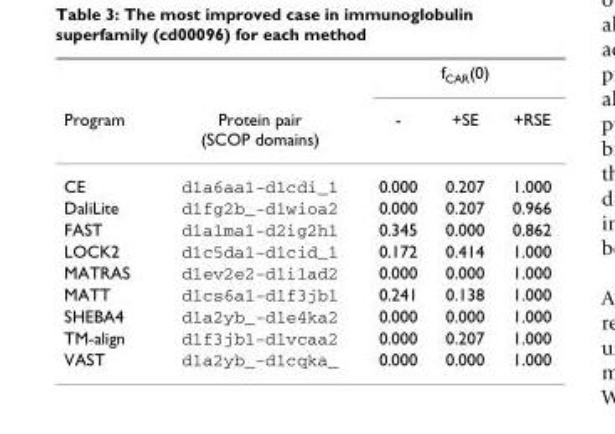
<table><thead><tr><td rowspan="2">Program</td><td rowspan="2">Protein pair (SCOP domains)</td><td colspan="3">f<sub>CAR</sub>(0)</td></tr><tr><td>-</td><td>+SE</td><td>+RSE</td></tr></thead><tbody><tr><td>CE</td><td>d1a6aa1-d1cdi_1</td><td>0.000</td><td>0.207</td><td>1.000</td></tr><tr><td>DaliLite</td><td>d1fg2b_-d1wioa2</td><td>0.000</td><td>0.207</td><td>0.966</td></tr><tr><td>FAST</td><td>d1a1ma1-d2ig2h1</td><td>0.345</td><td>0.000</td><td>0.862</td></tr><tr><td>LOCK2</td><td>d1c5da1-d1cid_1</td><td>0.172</td><td>0.414</td><td>1.000</td></tr><tr><td>MATRAS</td><td>d1ev2e2-d1i1ad2</td><td>0.000</td><td>0.000</td><td>1.000</td></tr><tr><td>MATT</td><td>d1cs6a1-d1f3jb1</td><td>0.241</td><td>0.138</td><td>1.000</td></tr><tr><td>SHEBA4</td><td>d1a2yb_-d1e4ka2</td><td>0.000</td><td>0.000</td><td>1.000</td></tr><tr><td>TM-align</td><td>d1f3jb1-d1vcaa2</td><td>0.000</td><td>0.207</td><td>1.000</td></tr><tr><td>VAST</td><td>d1a2yb_-d1cqka_</td><td>0.000</td><td>0.000</td><td>1.000</td></tr></tbody></table>